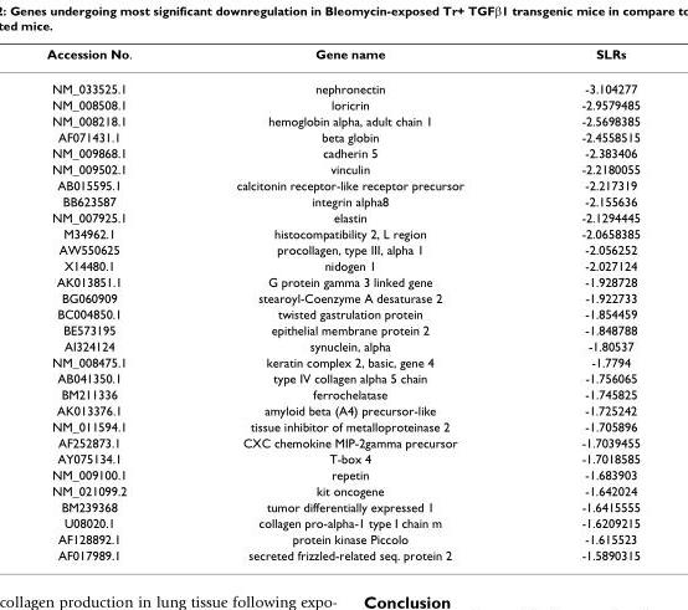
<table><thead><tr><td>Accession No.</td><td>Gene name</td><td>SLRs</td></tr></thead><tbody><tr><td>NM_033525.1</td><td>nephronectin</td><td>-3.104277</td></tr><tr><td>NM_008508.1</td><td>loricrin</td><td>-2.9579485</td></tr><tr><td>NM_008218.1</td><td>hemoglobin alpha, adult chain 1</td><td>-2.5698385</td></tr><tr><td>AF071431.1</td><td>beta globin</td><td>-2.4558515</td></tr><tr><td>NM_009868.1</td><td>cadherin 5</td><td>-2.383406</td></tr><tr><td>NM_009502.1</td><td>vinculin</td><td>-2.2180055</td></tr><tr><td>AB015595.1</td><td>calcitonin receptor-like receptor precursor</td><td>-2.217319</td></tr><tr><td>BB623587</td><td>integrin alpha8</td><td>-2.155636</td></tr><tr><td>NM_007925.1</td><td>elastin</td><td>-2.1294445</td></tr><tr><td>M34962.1</td><td>histocompatibility 2, L region</td><td>-2.0658385</td></tr><tr><td>AW550625</td><td>procollagen, type III, alpha 1</td><td>-2.056252</td></tr><tr><td>X14480.1</td><td>nidogen 1</td><td>-2.027124</td></tr><tr><td>AK013851.1</td><td>G protein gamma 3 linked gene</td><td>-1.928728</td></tr><tr><td>BG060909</td><td>stearoyl-Coenzyme A desaturase 2</td><td>-1.922733</td></tr><tr><td>BC004850.1</td><td>twisted gastrulation protein</td><td>-1.854459</td></tr><tr><td>BE573195</td><td>epithelial membrane protein 2</td><td>-1.848788</td></tr><tr><td>AI324124</td><td>synuclein, alpha</td><td>-1.80537</td></tr><tr><td>NM_008475.1</td><td>keratin complex 2, basic, gene 4</td><td>-1.7794</td></tr><tr><td>AB041350.1</td><td>type IV collagen alpha 5 chain</td><td>-1.756065</td></tr><tr><td>BM211336</td><td>ferrochelatase</td><td>-1.745825</td></tr><tr><td>AK013376.1</td><td>amyloid beta (A4) precursor-like</td><td>-1.725242</td></tr><tr><td>NM_011594.1</td><td>tissue inhibitor of metalloproteinase 2</td><td>-1.705896</td></tr><tr><td>AF252873.1</td><td>CXC chemokine MIP-2gamma precursor</td><td>-1.7039455</td></tr><tr><td>AY075134.1</td><td>T-box 4</td><td>-1.7018585</td></tr><tr><td>NM_009100.1</td><td>repetin</td><td>-1.683903</td></tr><tr><td>NM_021099.2</td><td>kit oncogene</td><td>-1.642024</td></tr><tr><td>BM239368</td><td>tumor differentially expressed 1</td><td>-1.6415555</td></tr><tr><td>U08020.1</td><td>collagen pro-alpha-1 type I chain m</td><td>-1.6209215</td></tr><tr><td>AF128892.1</td><td>protein kinase Piccolo</td><td>-1.615523</td></tr><tr><td>AF017989.1</td><td>secreted frizzled-related seq. protein 2</td><td>-1.5890315</td></tr></tbody></table>